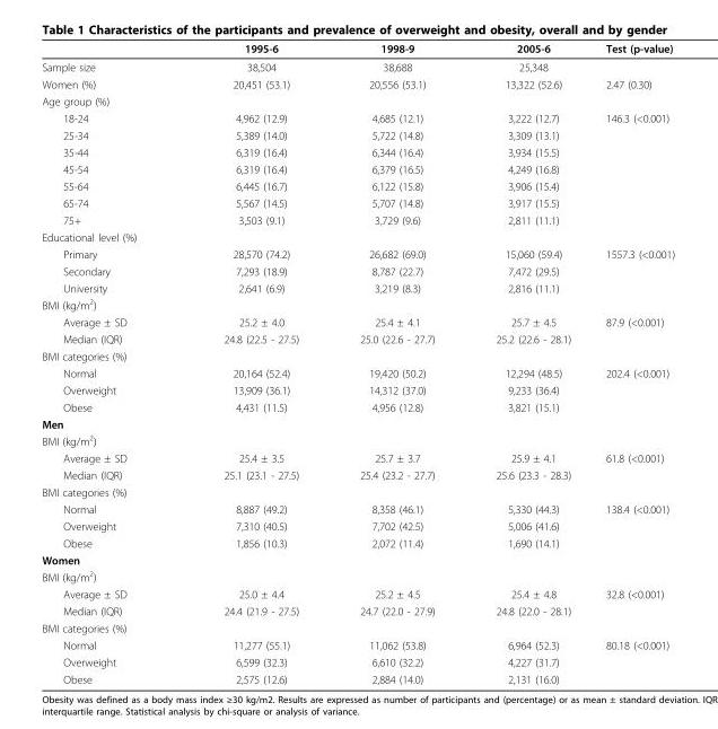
<table><thead><tr><td></td><td>1995-6</td><td>1998-9</td><td>2005-6</td><td>Test (p-value)</td></tr></thead><tbody><tr><td>Sample size</td><td>38,504</td><td>38,688</td><td>25,348</td><td></td></tr><tr><td>Women (%)</td><td>20,451 (53.1)</td><td>20,556 (53.1)</td><td>13,322 (52.6)</td><td>2.47 (0.30)</td></tr><tr><td colspan="5">Age group (%)</td></tr><tr><td>18-24</td><td>4,962 (12.9)</td><td>4,685 (12.1)</td><td>3,222 (12.7)</td><td>146.3 (&lt;0.001)</td></tr><tr><td>25-34</td><td>5,389 (14.0)</td><td>5,722 (14.8)</td><td>3,309 (13.1)</td><td></td></tr><tr><td>35-44</td><td>6,319 (16.4)</td><td>6,344 (16.4)</td><td>3,934 (15.5)</td><td></td></tr><tr><td>45-54</td><td>6,319 (16.4)</td><td>6,379 (16.5)</td><td>4,249 (16.8)</td><td></td></tr><tr><td>55-64</td><td>6,445 (16.7)</td><td>6,122 (15.8)</td><td>3,906 (15.4)</td><td></td></tr><tr><td>65-74</td><td>5,567 (14.5)</td><td>5,707 (14.8)</td><td>3,917 (15.5)</td><td></td></tr><tr><td>75+</td><td>3,503 (9.1)</td><td>3,729 (9.6)</td><td>2,811 (11.1)</td><td></td></tr><tr><td colspan="5">Educational level (%)</td></tr><tr><td>Primary</td><td>28,570 (74.2)</td><td>26,682 (69.0)</td><td>15,060 (59.4)</td><td>1557.3 (&lt;0.001)</td></tr><tr><td>Secondary</td><td>7,293 (18.9)</td><td>8,787 (22.7)</td><td>7,472 (29.5)</td><td></td></tr><tr><td>University</td><td>2,641 (6.9)</td><td>3,219 (8.3)</td><td>2,816 (11.1)</td><td></td></tr><tr><td colspan="5">BMI (kg/m<sup>2</sup>)</td></tr><tr><td>Average ± SD</td><td>25.2 ± 4.0</td><td>25.4 ± 4.1</td><td>25.7 ± 4.5</td><td>87.9 (&lt;0.001)</td></tr><tr><td>Median (IQR)</td><td>24.8 (22.5 - 27.5)</td><td>25.0 (22.6 - 27.7)</td><td>25.2 (22.6 - 28.1)</td><td></td></tr><tr><td colspan="5">BMI categories (%)</td></tr><tr><td>Normal</td><td>20,164 (52.4)</td><td>19,420 (50.2)</td><td>12,294 (48.5)</td><td>202.4 (&lt;0.001)</td></tr><tr><td>Overweight</td><td>13,909 (36.1)</td><td>14,312 (37.0)</td><td>9,233 (36.4)</td><td></td></tr><tr><td>Obese</td><td>4,431 (11.5)</td><td>4,956 (12.8)</td><td>3,821 (15.1)</td><td></td></tr><tr><td colspan="5">Men</td></tr><tr><td colspan="5">BMI (kg/m<sup>2</sup>)</td></tr><tr><td>Average ± SD</td><td>25.4 ± 3.5</td><td>25.7 ± 3.7</td><td>25.9 ± 4.1</td><td>61.8 (&lt;0.001)</td></tr><tr><td>Median (IQR)</td><td>25.1 (23.1 - 27.5)</td><td>25.4 (23.2 - 27.7)</td><td>25.6 (23.3 - 28.3)</td><td></td></tr><tr><td colspan="5">BMI categories (%)</td></tr><tr><td>Normal</td><td>8,887 (49.2)</td><td>8,358 (46.1)</td><td>5,330 (44.3)</td><td>138.4 (&lt;0.001)</td></tr><tr><td>Overweight</td><td>7,310 (40.5)</td><td>7,702 (42.5)</td><td>5,006 (41.6)</td><td></td></tr><tr><td>Obese</td><td>1,856 (10.3)</td><td>2,072 (11.4)</td><td>1,690 (14.1)</td><td></td></tr><tr><td colspan="5">Women</td></tr><tr><td colspan="5">BMI (kg/m<sup>2</sup>)</td></tr><tr><td>Average ± SD</td><td>25.0 ± 4.4</td><td>25.2 ± 4.5</td><td>25.4 ± 4.8</td><td>32.8 (&lt;0.001)</td></tr><tr><td>Median (IQR)</td><td>24.4 (21.9 - 27.5)</td><td>24.7 (22.0 - 27.9)</td><td>24.8 (22.0 - 28.1)</td><td></td></tr><tr><td colspan="5">BMI categories (%)</td></tr><tr><td>Normal</td><td>11,277 (55.1)</td><td>11,062 (53.8)</td><td>6,964 (52.3)</td><td>80.18 (&lt;0.001)</td></tr><tr><td>Overweight</td><td>6,599 (32.3)</td><td>6,610 (32.2)</td><td>4,227 (31.7)</td><td></td></tr><tr><td>Obese</td><td>2,575 (12.6)</td><td>2,884 (14.0)</td><td>2,131 (16.0)</td><td></td></tr></tbody></table>